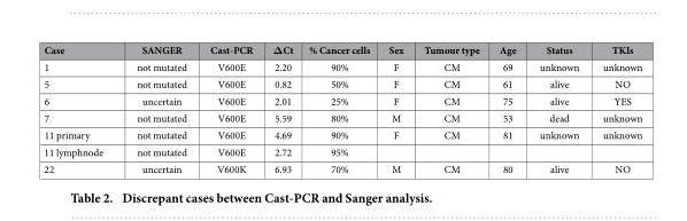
<table><thead><tr><td>Case</td><td>SANGER</td><td>Cast-PCR</td><td>ΔCt</td><td>% Cancer cells</td><td>Sex</td><td>Tumour type</td><td>Age</td><td>Status</td><td>TKIs</td></tr></thead><tbody><tr><td>1</td><td>not mutated</td><td>V600E</td><td>2.20</td><td>90%</td><td>F</td><td>CM</td><td>69</td><td>unknown</td><td>unknown</td></tr><tr><td>5</td><td>not mutated</td><td>V600E</td><td>0.82</td><td>50%</td><td>F</td><td>CM</td><td>61</td><td>alive</td><td>NO</td></tr><tr><td>6</td><td>uncertain</td><td>V600E</td><td>2.01</td><td>25%</td><td>F</td><td>CM</td><td>75</td><td>alive</td><td>YES</td></tr><tr><td>7</td><td>not mutated</td><td>V600E</td><td>5.59</td><td>80%</td><td>M</td><td>CM</td><td>53</td><td>dead</td><td>unknown</td></tr><tr><td>11 primary</td><td>not mutated</td><td>V600E</td><td>4.69</td><td>90%</td><td>F</td><td>CM</td><td>81</td><td>unknown</td><td>unknown</td></tr><tr><td>11 lymphnode</td><td>not mutated</td><td>V600E</td><td>2.72</td><td>95%</td><td></td><td></td><td></td><td></td><td></td></tr><tr><td>22</td><td>uncertain</td><td>V600K</td><td>6.93</td><td>70%</td><td>M</td><td>CM</td><td>80</td><td>alive</td><td>NO</td></tr></tbody></table>